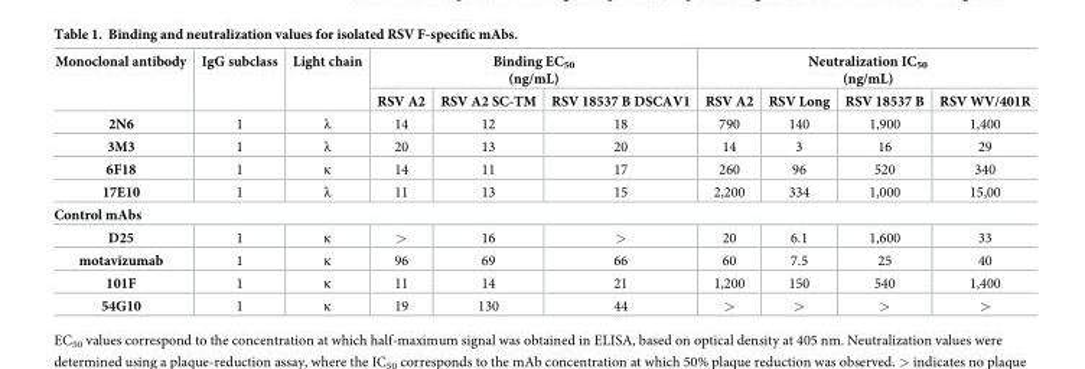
<table><thead><tr><td rowspan="2">Monoclonal antibody</td><td rowspan="2">IgG subclass</td><td rowspan="2">Light chain</td><td colspan="3">Binding EC<sub>50</sub> (ng/mL)</td><td colspan="4">Neutralization IC<sub>50</sub> (ng/mL)</td></tr><tr><td>RSV A2</td><td>RSV A2 SC-TM</td><td>RSV 18537 B DSCAV1</td><td>RSV A2</td><td>RSV Long</td><td>RSV 18537 B</td><td>RSV WV/401R</td></tr></thead><tbody><tr><td>2N6</td><td>1</td><td>λ</td><td>14</td><td>12</td><td>18</td><td>790</td><td>140</td><td>1,900</td><td>1,400</td></tr><tr><td>3M3</td><td>1</td><td>λ</td><td>20</td><td>13</td><td>20</td><td>14</td><td>3</td><td>16</td><td>29</td></tr><tr><td>6F18</td><td>1</td><td>κ</td><td>14</td><td>11</td><td>17</td><td>260</td><td>96</td><td>520</td><td>340</td></tr><tr><td>17E10</td><td>1</td><td>λ</td><td>11</td><td>13</td><td>15</td><td>2,200</td><td>334</td><td>1,000</td><td>15,00</td></tr><tr><td colspan="10">Control mAbs</td></tr><tr><td>D25</td><td>1</td><td>κ</td><td>&gt;</td><td>16</td><td>&gt;</td><td>20</td><td>6.1</td><td>1,600</td><td>33</td></tr><tr><td>motavizumab</td><td>1</td><td>κ</td><td>96</td><td>69</td><td>66</td><td>60</td><td>7.5</td><td>25</td><td>40</td></tr><tr><td>101F</td><td>1</td><td>κ</td><td>11</td><td>14</td><td>21</td><td>1,200</td><td>150</td><td>540</td><td>1,400</td></tr><tr><td>54G10</td><td>1</td><td>κ</td><td>19</td><td>130</td><td>44</td><td>&gt;</td><td>&gt;</td><td>&gt;</td><td>&gt;</td></tr></tbody></table>